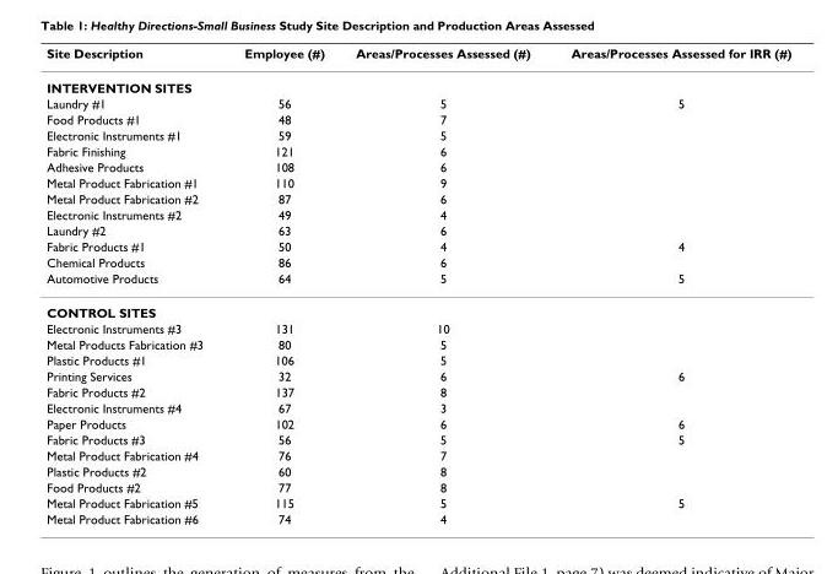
<table><thead><tr><td>Site Description</td><td>Employee (#)</td><td>Areas/Processes Assessed (#)</td><td>Areas/Processes Assessed for IRR (#)</td></tr></thead><tbody><tr><td colspan="4">INTERVENTION SITES</td></tr><tr><td>Laundry #1</td><td>56</td><td>5</td><td>5</td></tr><tr><td>Food Products #1</td><td>48</td><td>7</td><td></td></tr><tr><td>Electronic Instruments #1</td><td>59</td><td>5</td><td></td></tr><tr><td>Fabric Finishing</td><td>121</td><td>6</td><td></td></tr><tr><td>Adhesive Products</td><td>108</td><td>6</td><td></td></tr><tr><td>Metal Product Fabrication #1</td><td>110</td><td>9</td><td></td></tr><tr><td>Metal Product Fabrication #2</td><td>87</td><td>6</td><td></td></tr><tr><td>Electronic Instruments #2</td><td>49</td><td>4</td><td></td></tr><tr><td>Laundry #2</td><td>63</td><td>6</td><td></td></tr><tr><td>Fabric Products #1</td><td>50</td><td>4</td><td>4</td></tr><tr><td>Chemical Products</td><td>86</td><td>6</td><td></td></tr><tr><td>Automotive Products</td><td>64</td><td>5</td><td>5</td></tr><tr><td colspan="4">CONTROL SITES</td></tr><tr><td>Electronic Instruments #3</td><td>131</td><td>10</td><td></td></tr><tr><td>Metal Products Fabrication #3</td><td>80</td><td>5</td><td></td></tr><tr><td>Plastic Products #1</td><td>106</td><td>5</td><td></td></tr><tr><td>Printing Services</td><td>32</td><td>6</td><td>6</td></tr><tr><td>Fabric Products #2</td><td>137</td><td>8</td><td></td></tr><tr><td>Electronic Instruments #4</td><td>67</td><td>3</td><td></td></tr><tr><td>Paper Products</td><td>102</td><td>6</td><td>6</td></tr><tr><td>Fabric Products #3</td><td>56</td><td>5</td><td>5</td></tr><tr><td>Metal Product Fabrication #4</td><td>76</td><td>7</td><td></td></tr><tr><td>Plastic Products #2</td><td>60</td><td>8</td><td></td></tr><tr><td>Food Products #2</td><td>77</td><td>8</td><td></td></tr><tr><td>Metal Product Fabrication #5</td><td>115</td><td>5</td><td>5</td></tr><tr><td>Metal Product Fabrication #6</td><td>74</td><td>4</td><td></td></tr></tbody></table>